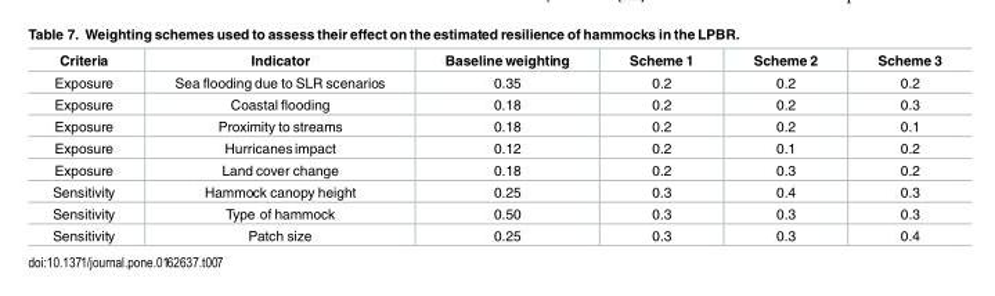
<table><thead><tr><td>Criteria</td><td>Indicator</td><td>Baseline weighting</td><td>Scheme 1</td><td>Scheme 2</td><td>Scheme 3</td></tr></thead><tbody><tr><td>Exposure</td><td>Sea flooding due to SLR scenarios</td><td>0.35</td><td>0.2</td><td>0.2</td><td>0.2</td></tr><tr><td>Exposure</td><td>Coastal flooding</td><td>0.18</td><td>0.2</td><td>0.2</td><td>0.3</td></tr><tr><td>Exposure</td><td>Proximity to streams</td><td>0.18</td><td>0.2</td><td>0.2</td><td>0.1</td></tr><tr><td>Exposure</td><td>Hurricanes impact</td><td>0.12</td><td>0.2</td><td>0.1</td><td>0.2</td></tr><tr><td>Exposure</td><td>Land cover change</td><td>0.18</td><td>0.2</td><td>0.3</td><td>0.2</td></tr><tr><td>Sensitivity</td><td>Hammock canopy height</td><td>0.25</td><td>0.3</td><td>0.4</td><td>0.3</td></tr><tr><td>Sensitivity</td><td>Type of hammock</td><td>0.50</td><td>0.3</td><td>0.3</td><td>0.3</td></tr><tr><td>Sensitivity</td><td>Patch size</td><td>0.25</td><td>0.3</td><td>0.3</td><td>0.4</td></tr></tbody></table>